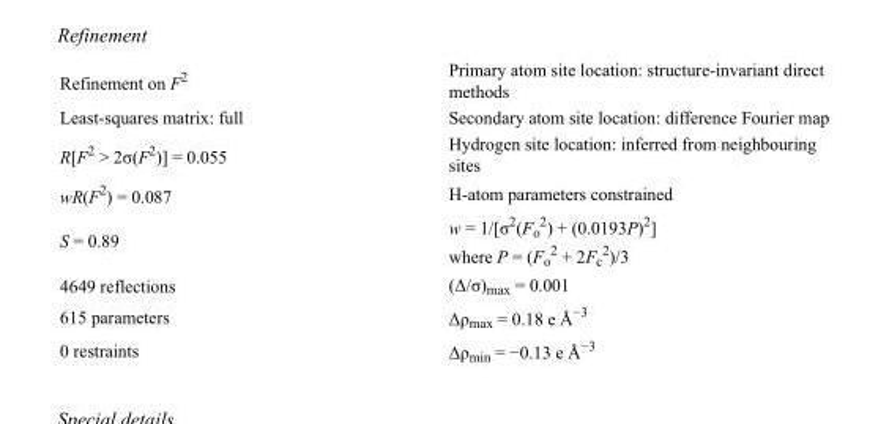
<table><tbody><tr><td>Refinement on F<sup>2</sup></td><td>Primary atom site location: structure-invariant direct methods</td></tr><tr><td>Least-squares matrix: full</td><td>Secondary atom site location: difference Fourier map</td></tr><tr><td>R[F<sup>2</sup> &gt; 2σ(F<sup>2</sup>)] = 0.055</td><td>Hydrogen site location: inferred from neighbouring sites</td></tr><tr><td>wR(F<sup>2</sup>) = 0.087</td><td>H-atom parameters constrained</td></tr><tr><td>S = 0.89</td><td>w = 1/[σ<sup>2</sup>(F<sub>o</sub> <sup>2</sup>) + (0.0193P)<sup>2</sup>] where P = (F<sub>o</sub> <sup>2</sup> + 2F<sub>c</sub> <sup>2</sup>)/3</td></tr><tr><td>4649 reflections</td><td>(Δ/σ)<sub>max</sub> = 0.001</td></tr><tr><td>615 parameters</td><td>Δρ<sub>max</sub> = 0.18 e Å<sup>−3</sup></td></tr><tr><td>0 restraints</td><td>Δρ<sub>min</sub> = −0.13 e Å<sup>−3</sup></td></tr></tbody></table>